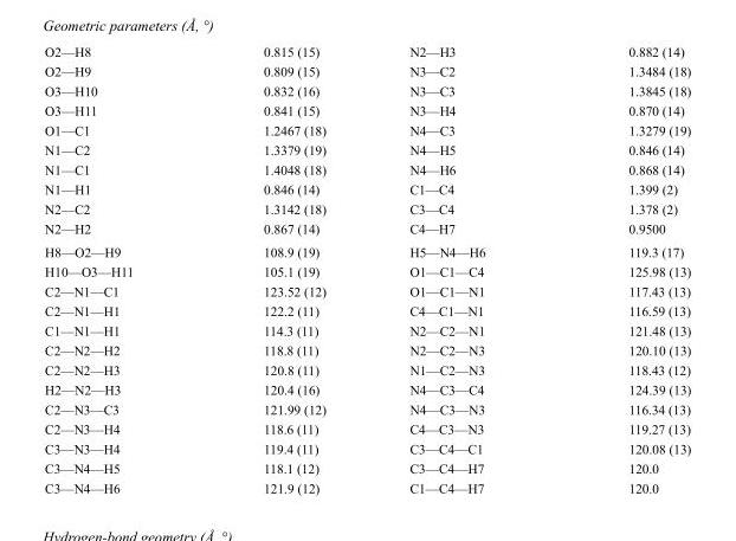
<table><tbody><tr><td>O2—H8</td><td>0.815 (15)</td><td>N2—H3</td><td>0.882 (14)</td></tr><tr><td>O2—H9</td><td>0.809 (15)</td><td>N3—C2</td><td>1.3484 (18)</td></tr><tr><td>O3—H10</td><td>0.832 (16)</td><td>N3—C3</td><td>1.3845 (18)</td></tr><tr><td>O3—H11</td><td>0.841 (15)</td><td>N3—H4</td><td>0.870 (14)</td></tr><tr><td>O1—C1</td><td>1.2467 (18)</td><td>N4—C3</td><td>1.3279 (19)</td></tr><tr><td>N1—C2</td><td>1.3379 (19)</td><td>N4—H5</td><td>0.846 (14)</td></tr><tr><td>N1—C1</td><td>1.4048 (18)</td><td>N4—H6</td><td>0.868 (14)</td></tr><tr><td>N1—H1</td><td>0.846 (14)</td><td>C1—C4</td><td>1.399 (2)</td></tr><tr><td>N2—C2</td><td>1.3142 (18)</td><td>C3—C4</td><td>1.378 (2)</td></tr><tr><td>N2—H2</td><td>0.867 (14)</td><td>C4—H7</td><td>0.9500</td></tr><tr><td>H8—O2—H9</td><td>108.9 (19)</td><td>H5—N4—H6</td><td>119.3 (17)</td></tr><tr><td>H10—O3—H11</td><td>105.1 (19)</td><td>O1—C1—C4</td><td>125.98 (13)</td></tr><tr><td>C2—N1—C1</td><td>123.52 (12)</td><td>O1—C1—N1</td><td>117.43 (13)</td></tr><tr><td>C2—N1—H1</td><td>122.2 (11)</td><td>C4—C1—N1</td><td>116.59 (13)</td></tr><tr><td>C1—N1—H1</td><td>114.3 (11)</td><td>N2—C2—N1</td><td>121.48 (13)</td></tr><tr><td>C2—N2—H2</td><td>118.8 (11)</td><td>N2—C2—N3</td><td>120.10 (13)</td></tr><tr><td>C2—N2—H3</td><td>120.8 (11)</td><td>N1—C2—N3</td><td>118.43 (12)</td></tr><tr><td>H2—N2—H3</td><td>120.4 (16)</td><td>N4—C3—C4</td><td>124.39 (13)</td></tr><tr><td>C2—N3—C3</td><td>121.99 (12)</td><td>N4—C3—N3</td><td>116.34 (13)</td></tr><tr><td>C2—N3—H4</td><td>118.6 (11)</td><td>C4—C3—N3</td><td>119.27 (13)</td></tr><tr><td>C3—N3—H4</td><td>119.4 (11)</td><td>C3—C4—C1</td><td>120.08 (13)</td></tr><tr><td>C3—N4—H5</td><td>118.1 (12)</td><td>C3—C4—H7</td><td>120.0</td></tr><tr><td>C3—N4—H6</td><td>121.9 (12)</td><td>C1—C4—H7</td><td>120.0</td></tr></tbody></table>